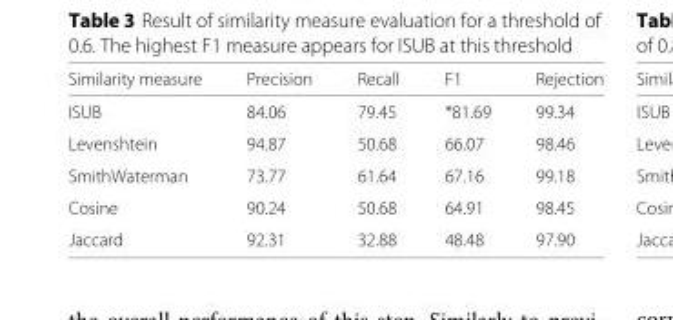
<table><thead><tr><td>Similarity measure</td><td>Precision</td><td>Recall</td><td>F1</td><td>Rejection</td></tr></thead><tbody><tr><td>ISUB</td><td>84.06</td><td>79.45</td><td>*81.69</td><td>99.34</td></tr><tr><td>Levenshtein</td><td>94.87</td><td>50.68</td><td>66.07</td><td>98.46</td></tr><tr><td>SmithWaterman</td><td>73.77</td><td>61.64</td><td>67.16</td><td>99.18</td></tr><tr><td>Cosine</td><td>90.24</td><td>50.68</td><td>64.91</td><td>98.45</td></tr><tr><td>Jaccard</td><td>92.31</td><td>32.88</td><td>48.48</td><td>97.90</td></tr></tbody></table>